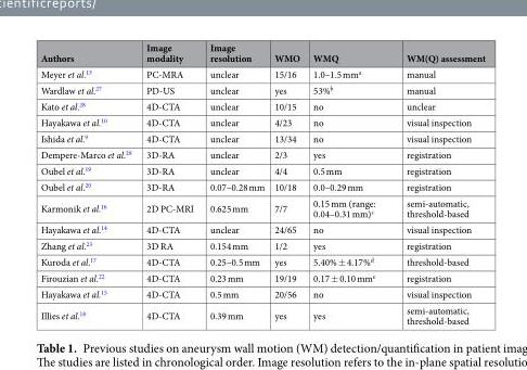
<table><thead><tr><td>Authors</td><td>Image modality</td><td>Image resolution</td><td>WMO</td><td>WMQ</td><td>WM(Q) assessment</td></tr></thead><tbody><tr><td>Meyer et al.<sup>13</sup></td><td>PC-MRA</td><td>unclear</td><td>15/16</td><td>1.0–1.5 mm<sup>a</sup></td><td>manual</td></tr><tr><td>Wardlaw et al.<sup>27</sup></td><td>PD-US</td><td>unclear</td><td>yes</td><td>53%<sup>b</sup></td><td>manual</td></tr><tr><td>Kato et al.<sup>28</sup></td><td>4D-CTA</td><td>unclear</td><td>10/15</td><td>no</td><td>unclear</td></tr><tr><td>Hayakawa et al.<sup>10</sup></td><td>4D-CTA</td><td>unclear</td><td>4/23</td><td>no</td><td>visual inspection</td></tr><tr><td>Ishida et al.<sup>9</sup></td><td>4D-CTA</td><td>unclear</td><td>13/34</td><td>no</td><td>visual inspection</td></tr><tr><td>Dempere-Marco et al.<sup>29</sup></td><td>3D-RA</td><td>unclear</td><td>2/3</td><td>yes</td><td>registration</td></tr><tr><td>Oubel et al.<sup>19</sup></td><td>3D-RA</td><td>unclear</td><td>4/4</td><td>0.5 mm</td><td>registration</td></tr><tr><td>Oubel et al.<sup>20</sup></td><td>3D-RA</td><td>0.07–0.28 mm</td><td>10/18</td><td>0.0–0.29 mm</td><td>registration</td></tr><tr><td>Karmonik et al.<sup>16</sup></td><td>2D PC-MRI</td><td>0.625 mm</td><td>7/7</td><td>0.15 mm (range: 0.04–0.31 mm)<sup>c</sup></td><td>semi-automatic, threshold-based</td></tr><tr><td>Hayakawa et al.<sup>14</sup></td><td>4D-CTA</td><td>unclear</td><td>24/65</td><td>no</td><td>visual inspection</td></tr><tr><td>Zhang et al.<sup>23</sup></td><td>3D RA</td><td>0.154 mm</td><td>1/2</td><td>yes</td><td>registration</td></tr><tr><td>Kuroda et al.<sup>17</sup></td><td>4D-CTA</td><td>0.25–0.5 mm</td><td>yes</td><td>5.40% ± 4.17%<sup>d</sup></td><td>threshold-based</td></tr><tr><td>Firouzian et al.<sup>22</sup></td><td>4D-CTA</td><td>0.23 mm</td><td>19/19</td><td>0.17 ± 0.10 mm<sup>e</sup></td><td>registration</td></tr><tr><td>Hayakawa et al.<sup>15</sup></td><td>4D-CTA</td><td>0.5 mm</td><td>20/56</td><td>no</td><td>visual inspection</td></tr><tr><td>Illies et al.<sup>18</sup></td><td>4D-CTA</td><td>0.39 mm</td><td>yes</td><td>yes</td><td>semi-automatic, threshold-based</td></tr></tbody></table>